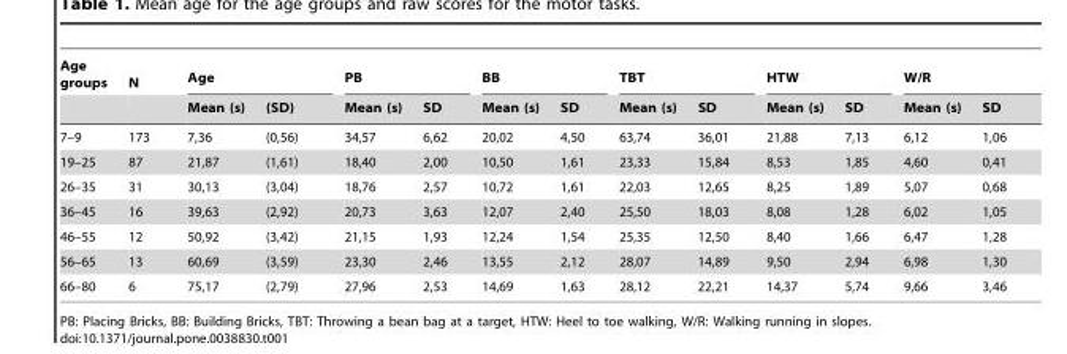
<table><thead><tr><td rowspan="2">Age groups</td><td rowspan="2">N</td><td colspan="2">Age</td><td colspan="2">PB</td><td colspan="2">BB</td><td colspan="2">TBT</td><td colspan="2">HTW</td><td colspan="2">W/R</td></tr><tr><td>Mean (s)</td><td>(SD)</td><td>Mean (s)</td><td>SD</td><td>Mean (s)</td><td>SD</td><td>Mean (s)</td><td>SD</td><td>Mean (s)</td><td>SD</td><td>Mean (s)</td><td>SD</td></tr></thead><tbody><tr><td>7–9</td><td>173</td><td>7,36</td><td>(0,56)</td><td>34,57</td><td>6,62</td><td>20,02</td><td>4,50</td><td>63,74</td><td>36,01</td><td>21,88</td><td>7,13</td><td>6,12</td><td>1,06</td></tr><tr><td>19–25</td><td>87</td><td>21,87</td><td>(1,61)</td><td>18,40</td><td>2,00</td><td>10,50</td><td>1,61</td><td>23,33</td><td>15,84</td><td>8,53</td><td>1,85</td><td>4,60</td><td>0,41</td></tr><tr><td>26–35</td><td>31</td><td>30,13</td><td>(3,04)</td><td>18,76</td><td>2,57</td><td>10,72</td><td>1,61</td><td>22,03</td><td>12,65</td><td>8,25</td><td>1,89</td><td>5,07</td><td>0,68</td></tr><tr><td>36–45</td><td>16</td><td>39,63</td><td>(2,92)</td><td>20,73</td><td>3,63</td><td>12,07</td><td>2,40</td><td>25,50</td><td>18,03</td><td>8,08</td><td>1,28</td><td>6,02</td><td>1,05</td></tr><tr><td>46–55</td><td>12</td><td>50,92</td><td>(3,42)</td><td>21,15</td><td>1,93</td><td>12,24</td><td>1,54</td><td>25,35</td><td>12,50</td><td>8,40</td><td>1,66</td><td>6,47</td><td>1,28</td></tr><tr><td>56–65</td><td>13</td><td>60,69</td><td>(3,59)</td><td>23,30</td><td>2,46</td><td>13,55</td><td>2,12</td><td>28,07</td><td>14,89</td><td>9,50</td><td>2,94</td><td>6,98</td><td>1,30</td></tr><tr><td>66–80</td><td>6</td><td>75,17</td><td>(2,79)</td><td>27,96</td><td>2,53</td><td>14,69</td><td>1,63</td><td>28,12</td><td>22,21</td><td>14,37</td><td>5,74</td><td>9,66</td><td>3,46</td></tr></tbody></table>